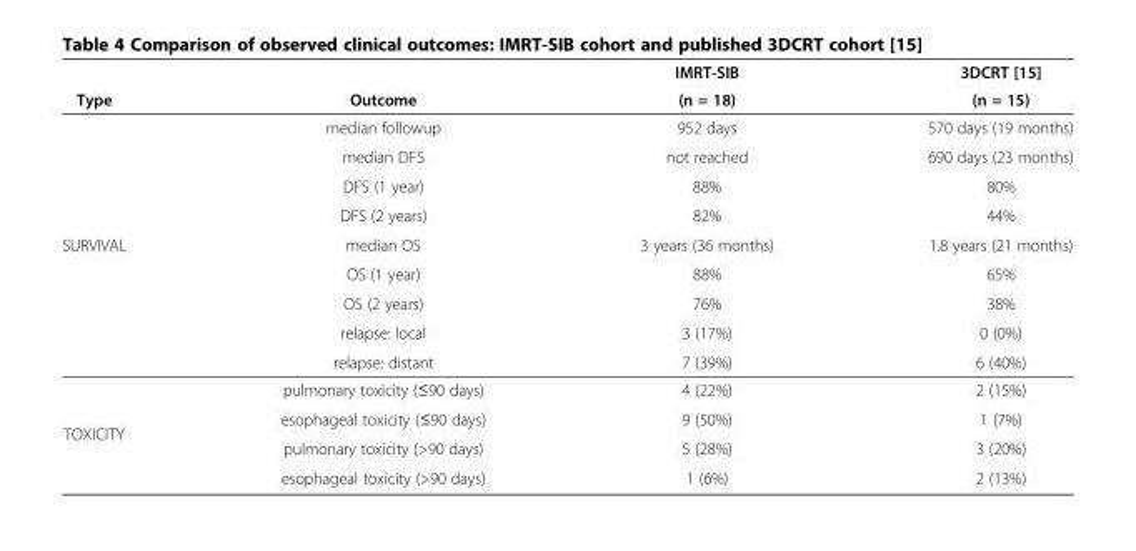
<table><thead><tr><td rowspan="2">Type</td><td rowspan="2">Outcome</td><td rowspan="2">IMRT-SIB (n = 18)</td><td rowspan="2">3DCRT [15] (n = 15)</td></tr><tr></tr></thead><tbody><tr><td rowspan="9">SURVIVAL</td><td>median followup</td><td>952 days</td><td>570 days (19 months)</td></tr><tr><td>median DFS</td><td>not reached</td><td>690 days (23 months)</td></tr><tr><td>DFS (1 year)</td><td>88%</td><td>80%</td></tr><tr><td>DFS (2 years)</td><td>82%</td><td>44%</td></tr><tr><td>median OS</td><td>3 years (36 months)</td><td>1.8 years (21 months)</td></tr><tr><td>OS (1 year)</td><td>88%</td><td>65%</td></tr><tr><td>OS (2 years)</td><td>76%</td><td>38%</td></tr><tr><td>relapse: local</td><td>3 (17%)</td><td>0 (0%)</td></tr><tr><td>relapse: distant</td><td>7 (39%)</td><td>6 (40%)</td></tr><tr><td rowspan="4">TOXICITY</td><td>pulmonary toxicity (≤90 days)</td><td>4 (22%)</td><td>2 (15%)</td></tr><tr><td>esophageal toxicity (≤90 days)</td><td>9 (50%)</td><td>1 (7%)</td></tr><tr><td>pulmonary toxicity (&gt;90 days)</td><td>5 (28%)</td><td>3 (20%)</td></tr><tr><td>esophageal toxicity (&gt;90 days)</td><td>1 (6%)</td><td>2 (13%)</td></tr></tbody></table>